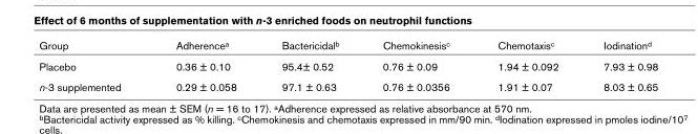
<table><thead><tr><td>Group</td><td>Adherence<sup>a</sup></td><td>Bactericidal<sup>b</sup></td><td>Chemokinesis<sup>c</sup></td><td>Chemotaxis<sup>c</sup></td><td>Iodination<sup>d</sup></td></tr></thead><tbody><tr><td>Placebo</td><td>0.36 ± 0.10</td><td>95.4± 0.52</td><td>0.76 ± 0.09</td><td>1.94 ± 0.092</td><td>7.93 ± 0.98</td></tr><tr><td>n-3 supplemented</td><td>0.29 ± 0.058</td><td>97.1 ± 0.63</td><td>0.76 ± 0.0356</td><td>1.91 ± 0.07</td><td>8.03 ± 0.65</td></tr></tbody></table>